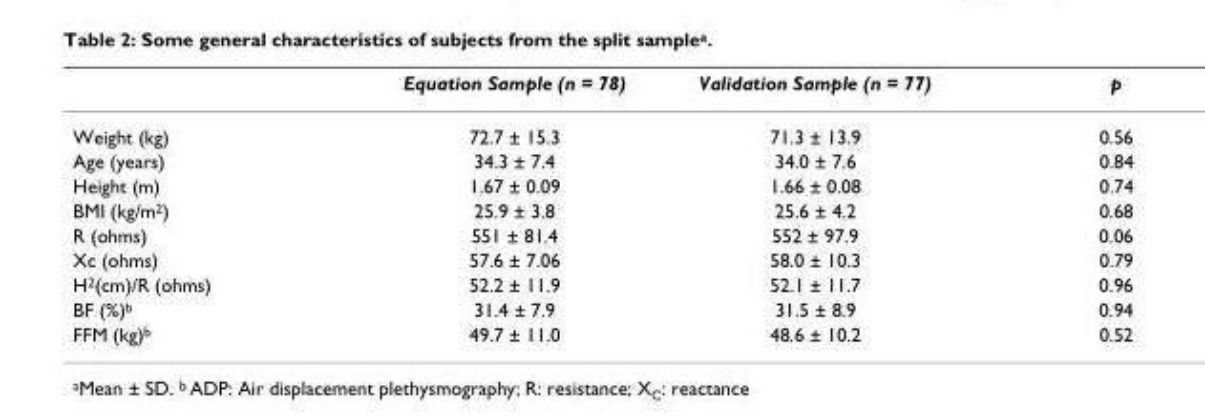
<table><thead><tr><td></td><td>Equation Sample (n = 78)</td><td>Validation Sample (n = 77)</td><td>p</td></tr></thead><tbody><tr><td>Weight (kg)</td><td>72.7 ± 15.3</td><td>71.3 ± 13.9</td><td>0.56</td></tr><tr><td>Age (years)</td><td>34.3 ± 7.4</td><td>34.0 ± 7.6</td><td>0.84</td></tr><tr><td>Height (m)</td><td>1.67 ± 0.09</td><td>1.66 ± 0.08</td><td>0.74</td></tr><tr><td>BMI (kg/m<sup>2</sup>)</td><td>25.9 ± 3.8</td><td>25.6 ± 4.2</td><td>0.68</td></tr><tr><td>R (ohms)</td><td>551 ± 81.4</td><td>552 ± 97.9</td><td>0.06</td></tr><tr><td>Xc (ohms)</td><td>57.6 ± 7.06</td><td>58.0 ± 10.3</td><td>0.79</td></tr><tr><td>H<sup>2</sup>(cm)/R (ohms)</td><td>52.2 ± 11.9</td><td>52.1 ± 11.7</td><td>0.96</td></tr><tr><td>BF (%)<sup>b</sup></td><td>31.4 ± 7.9</td><td>31.5 ± 8.9</td><td>0.94</td></tr><tr><td>FFM (kg)<sup>b</sup></td><td>49.7 ± 11.0</td><td>48.6 ± 10.2</td><td>0.52</td></tr></tbody></table>